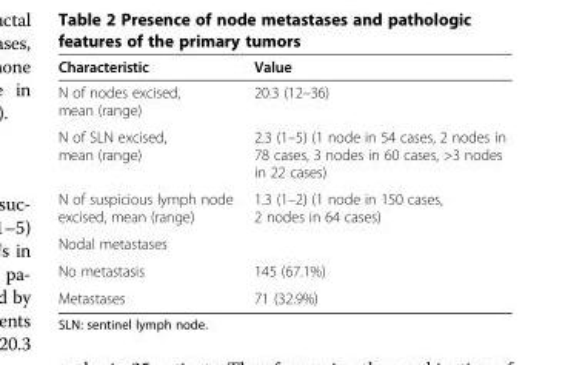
<table><thead><tr><td>Characteristic</td><td>Value</td></tr></thead><tbody><tr><td>N of nodes excised, mean (range)</td><td>20.3 (12–36)</td></tr><tr><td>N of SLN excised, mean (range)</td><td>2.3 (1–5) (1 node in 54 cases, 2 nodes in 78 cases, 3 nodes in 60 cases, &gt;3 nodes in 22 cases)</td></tr><tr><td>N of suspicious lymph node excised, mean (range)</td><td>1.3 (1–2) (1 node in 150 cases, 2 nodes in 64 cases)</td></tr><tr><td colspan="2">Nodal metastases</td></tr><tr><td>No metastasis</td><td>145 (67.1%)</td></tr><tr><td>Metastases</td><td>71 (32.9%)</td></tr></tbody></table>